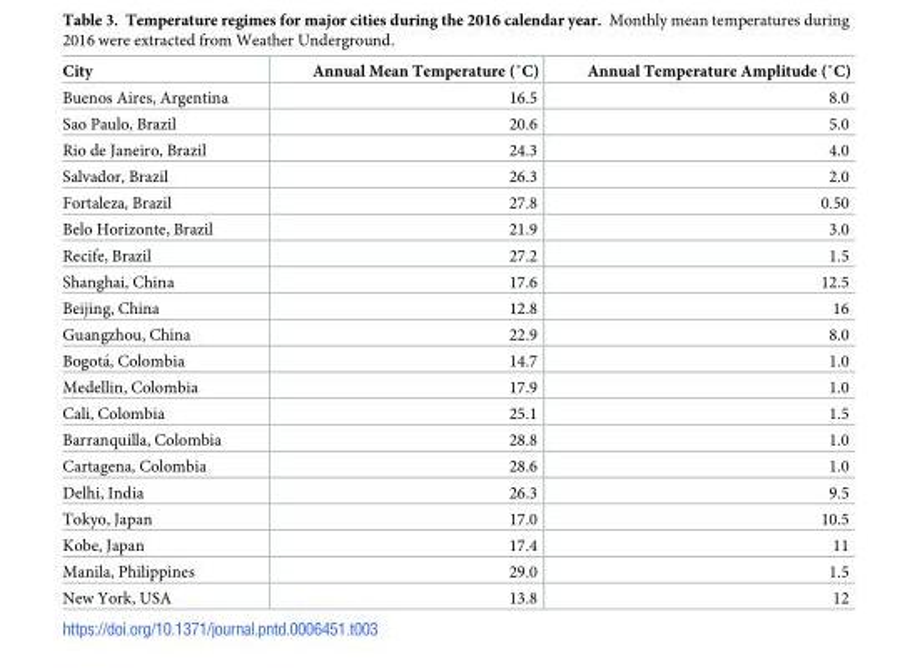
<table><thead><tr><td>City</td><td>Annual Mean Temperature (˚C)</td><td>Annual Temperature Amplitude (˚C)</td></tr></thead><tbody><tr><td>Buenos Aires, Argentina</td><td>16.5</td><td>8.0</td></tr><tr><td>Sao Paulo, Brazil</td><td>20.6</td><td>5.0</td></tr><tr><td>Rio de Janeiro, Brazil</td><td>24.3</td><td>4.0</td></tr><tr><td>Salvador, Brazil</td><td>26.3</td><td>2.0</td></tr><tr><td>Fortaleza, Brazil</td><td>27.8</td><td>0.50</td></tr><tr><td>Belo Horizonte, Brazil</td><td>21.9</td><td>3.0</td></tr><tr><td>Recife, Brazil</td><td>27.2</td><td>1.5</td></tr><tr><td>Shanghai, China</td><td>17.6</td><td>12.5</td></tr><tr><td>Beijing, China</td><td>12.8</td><td>16</td></tr><tr><td>Guangzhou, China</td><td>22.9</td><td>8.0</td></tr><tr><td>Bogota´, Colombia</td><td>14.7</td><td>1.0</td></tr><tr><td>Medellin, Colombia</td><td>17.9</td><td>1.0</td></tr><tr><td>Cali, Colombia</td><td>25.1</td><td>1.5</td></tr><tr><td>Barranquilla, Colombia</td><td>28.8</td><td>1.0</td></tr><tr><td>Cartagena, Colombia</td><td>28.6</td><td>1.0</td></tr><tr><td>Delhi, India</td><td>26.3</td><td>9.5</td></tr><tr><td>Tokyo, Japan</td><td>17.0</td><td>10.5</td></tr><tr><td>Kobe, Japan</td><td>17.4</td><td>11</td></tr><tr><td>Manila, Philippines</td><td>29.0</td><td>1.5</td></tr><tr><td>New York, USA</td><td>13.8</td><td>12</td></tr></tbody></table>